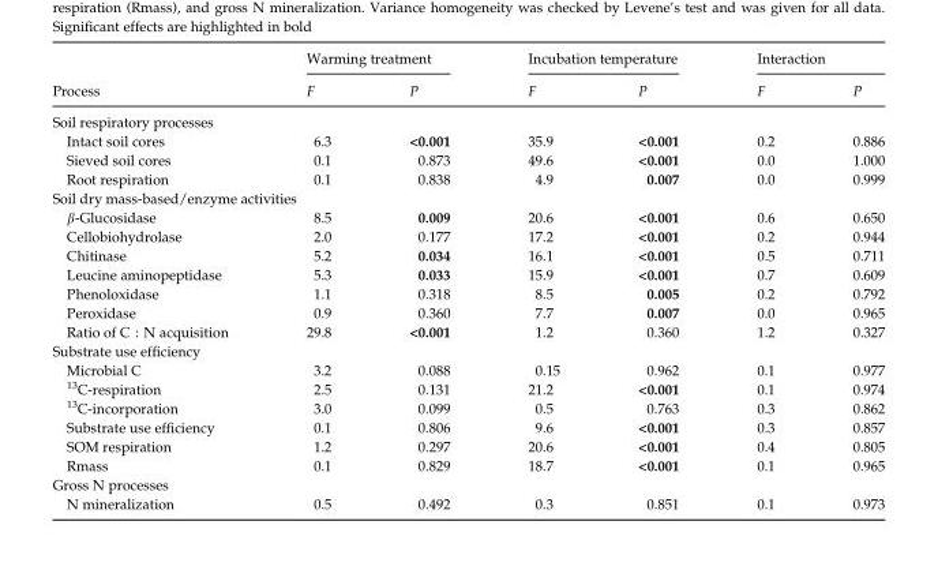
<table><thead><tr><td rowspan="2">Process</td><td colspan="2">Warming treatment</td><td colspan="2">Incubation temperature</td><td colspan="2">Interaction</td></tr><tr><td>F</td><td>P</td><td>F</td><td>P</td><td>F</td><td>P</td></tr></thead><tbody><tr><td colspan="7">Soil respiratory processes</td></tr><tr><td>Intact soil cores</td><td>6.3</td><td>&lt;0.001</td><td>35.9</td><td>&lt;0.001</td><td>0.2</td><td>0.886</td></tr><tr><td>Sieved soil cores</td><td>0.1</td><td>0.873</td><td>49.6</td><td>&lt;0.001</td><td>0.0</td><td>1.000</td></tr><tr><td>Root respiration</td><td>0.1</td><td>0.838</td><td>4.9</td><td>0.007</td><td>0.0</td><td>0.999</td></tr><tr><td colspan="7">Soil dry mass-based/enzyme activities</td></tr><tr><td>β-Glucosidase</td><td>8.5</td><td>0.009</td><td>20.6</td><td>&lt;0.001</td><td>0.6</td><td>0.650</td></tr><tr><td>Cellobiohydrolase</td><td>2.0</td><td>0.177</td><td>17.2</td><td>&lt;0.001</td><td>0.2</td><td>0.944</td></tr><tr><td>Chitinase</td><td>5.2</td><td>0.034</td><td>16.1</td><td>&lt;0.001</td><td>0.5</td><td>0.711</td></tr><tr><td>Leucine aminopeptidase</td><td>5.3</td><td>0.033</td><td>15.9</td><td>&lt;0.001</td><td>0.7</td><td>0.609</td></tr><tr><td>Phenoloxidase</td><td>1.1</td><td>0.318</td><td>8.5</td><td>0.005</td><td>0.2</td><td>0.792</td></tr><tr><td>Peroxidase</td><td>0.9</td><td>0.360</td><td>7.7</td><td>0.007</td><td>0.0</td><td>0.965</td></tr><tr><td>Ratio of C : N acquisition</td><td>29.8</td><td>&lt;0.001</td><td>1.2</td><td>0.360</td><td>1.2</td><td>0.327</td></tr><tr><td colspan="7">Substrate use efficiency</td></tr><tr><td>Microbial C</td><td>3.2</td><td>0.088</td><td>0.15</td><td>0.962</td><td>0.1</td><td>0.977</td></tr><tr><td><sup>13</sup>C-respiration</td><td>2.5</td><td>0.131</td><td>21.2</td><td>&lt;0.001</td><td>0.1</td><td>0.974</td></tr><tr><td><sup>13</sup>C-incorporation</td><td>3.0</td><td>0.099</td><td>0.5</td><td>0.763</td><td>0.3</td><td>0.862</td></tr><tr><td>Substrate use efficiency</td><td>0.1</td><td>0.806</td><td>9.6</td><td>&lt;0.001</td><td>0.3</td><td>0.857</td></tr><tr><td>SOM respiration</td><td>1.2</td><td>0.297</td><td>20.6</td><td>&lt;0.001</td><td>0.4</td><td>0.805</td></tr><tr><td>Rmass</td><td>0.1</td><td>0.829</td><td>18.7</td><td>&lt;0.001</td><td>0.1</td><td>0.965</td></tr><tr><td colspan="7">Gross N processes</td></tr><tr><td>N mineralization</td><td>0.5</td><td>0.492</td><td>0.3</td><td>0.851</td><td>0.1</td><td>0.973</td></tr></tbody></table>